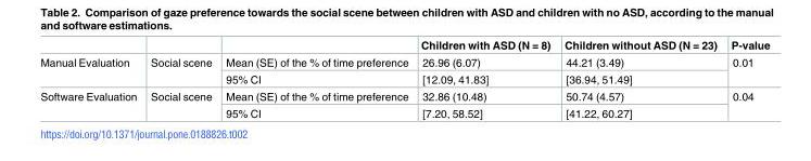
<table><thead><tr><td></td><td></td><td></td><td>Children with ASD (N = 8)</td><td>Children without ASD (N = 23)</td><td>P-value</td></tr></thead><tbody><tr><td rowspan="2">Manual Evaluation</td><td rowspan="2">Social scene</td><td>Mean (SE) of the % of time preference</td><td>26.96 (6.07)</td><td>44.21 (3.49)</td><td rowspan="2">0.01</td></tr><tr><td>95% CI</td><td>[12.09, 41.83]</td><td>[36.94, 51.49]</td></tr><tr><td rowspan="2">Software Evaluation</td><td rowspan="2">Social scene</td><td>Mean (SE) of the % of time preference</td><td>32.86 (10.48)</td><td>50.74 (4.57)</td><td rowspan="2">0.04</td></tr><tr><td>95% CI</td><td>[7.20, 58.52]</td><td>[41.22, 60.27]</td></tr></tbody></table>